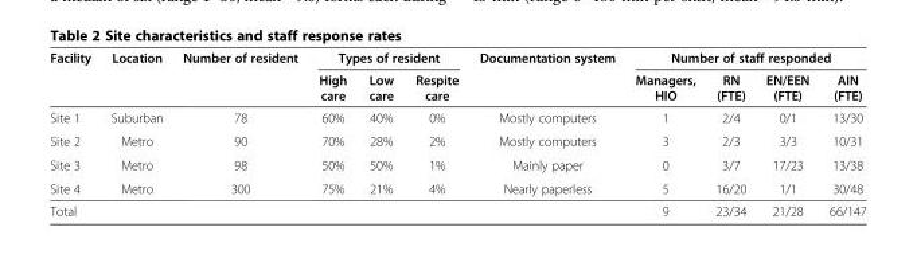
<table><thead><tr><td rowspan="2">Facility</td><td rowspan="2">Location</td><td rowspan="2">Number of resident</td><td colspan="3">Types of resident</td><td rowspan="2">Documentation system</td><td colspan="4">Number of staff responded</td></tr><tr><td>High care</td><td>Low care</td><td>Respite care</td><td>Managers, HIO</td><td>RN (FTE)</td><td>EN/EEN (FTE)</td><td>AIN (FTE)</td></tr></thead><tbody><tr><td>Site 1</td><td>Suburban</td><td>78</td><td>60%</td><td>40%</td><td>0%</td><td>Mostly computers</td><td>1</td><td>2/4</td><td>0/1</td><td>13/30</td></tr><tr><td>Site 2</td><td>Metro</td><td>90</td><td>70%</td><td>28%</td><td>2%</td><td>Mostly computers</td><td>3</td><td>2/3</td><td>3/3</td><td>10/31</td></tr><tr><td>Site 3</td><td>Metro</td><td>98</td><td>50%</td><td>50%</td><td>1%</td><td>Mainly paper</td><td>0</td><td>3/7</td><td>17/23</td><td>13/38</td></tr><tr><td>Site 4</td><td>Metro</td><td>300</td><td>75%</td><td>21%</td><td>4%</td><td>Nearly paperless</td><td>5</td><td>16/20</td><td>1/1</td><td>30/48</td></tr><tr><td>Total</td><td></td><td></td><td></td><td></td><td></td><td></td><td>9</td><td>23/34</td><td>21/28</td><td>66/147</td></tr></tbody></table>